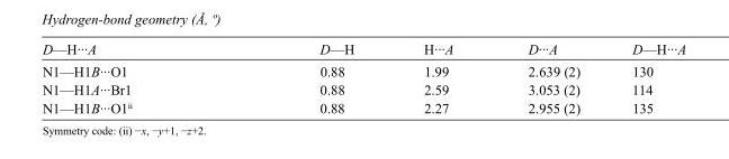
<table><tbody><tr><td>D—H···A</td><td>D—H</td><td>H···A</td><td>D···A</td><td>D—H···A</td></tr><tr><td>N1—H1B···O1</td><td>0.88</td><td>1.99</td><td>2.639 (2)</td><td>130</td></tr><tr><td>N1—H1A···Br1</td><td>0.88</td><td>2.59</td><td>3.053 (2)</td><td>114</td></tr><tr><td>N1—H1B···O1<sup>ii</sup></td><td>0.88</td><td>2.27</td><td>2.955 (2)</td><td>135</td></tr></tbody></table>